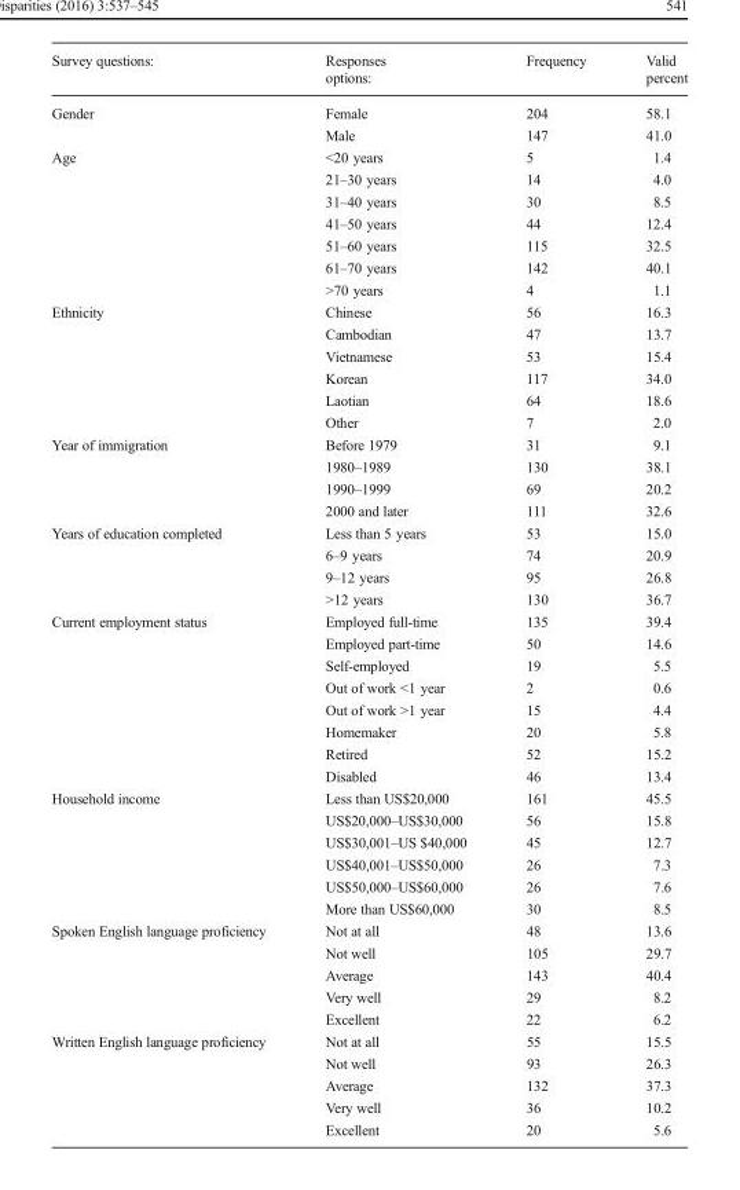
<table><thead><tr><td>Survey questions:</td><td>Responses options:</td><td>Frequency</td><td>Valid percent</td></tr></thead><tbody><tr><td rowspan="2">Gender</td><td>Female</td><td>204</td><td>58.1</td></tr><tr><td>Male</td><td>147</td><td>41.0</td></tr><tr><td rowspan="7">Age</td><td>&lt;20 years</td><td>5</td><td>1.4</td></tr><tr><td>21–30 years</td><td>14</td><td>4.0</td></tr><tr><td>31–40 years</td><td>30</td><td>8.5</td></tr><tr><td>41–50 years</td><td>44</td><td>12.4</td></tr><tr><td>51–60 years</td><td>115</td><td>32.5</td></tr><tr><td>61–70 years</td><td>142</td><td>40.1</td></tr><tr><td>&gt;70 years</td><td>4</td><td>1.1</td></tr><tr><td rowspan="6">Ethnicity</td><td>Chinese</td><td>56</td><td>16.3</td></tr><tr><td>Cambodian</td><td>47</td><td>13.7</td></tr><tr><td>Vietnamese</td><td>53</td><td>15.4</td></tr><tr><td>Korean</td><td>117</td><td>34.0</td></tr><tr><td>Laotian</td><td>64</td><td>18.6</td></tr><tr><td>Other</td><td>7</td><td>2.0</td></tr><tr><td rowspan="4">Year of immigration</td><td>Before 1979</td><td>31</td><td>9.1</td></tr><tr><td>1980–1989</td><td>130</td><td>38.1</td></tr><tr><td>1990–1999</td><td>69</td><td>20.2</td></tr><tr><td>2000 and later</td><td>111</td><td>32.6</td></tr><tr><td rowspan="4">Years of education completed</td><td>Less than 5 years</td><td>53</td><td>15.0</td></tr><tr><td>6–9 years</td><td>74</td><td>20.9</td></tr><tr><td>9–12 years</td><td>95</td><td>26.8</td></tr><tr><td>&gt;12 years</td><td>130</td><td>36.7</td></tr><tr><td rowspan="8">Current employment status</td><td>Employed full-time</td><td>135</td><td>39.4</td></tr><tr><td>Employed part-time</td><td>50</td><td>14.6</td></tr><tr><td>Self-employed</td><td>19</td><td>5.5</td></tr><tr><td>Out of work &lt;1 year</td><td>2</td><td>0.6</td></tr><tr><td>Out of work &gt;1 year</td><td>15</td><td>4.4</td></tr><tr><td>Homemaker</td><td>20</td><td>5.8</td></tr><tr><td>Retired</td><td>52</td><td>15.2</td></tr><tr><td>Disabled</td><td>46</td><td>13.4</td></tr><tr><td rowspan="6">Household income</td><td>Less than US$20,000</td><td>161</td><td>45.5</td></tr><tr><td>US$20,000–US$30,000</td><td>56</td><td>15.8</td></tr><tr><td>US$30,001–US $40,000</td><td>45</td><td>12.7</td></tr><tr><td>US$40,001–US$50,000</td><td>26</td><td>7.3</td></tr><tr><td>US$50,000–US$60,000</td><td>26</td><td>7.6</td></tr><tr><td>More than US$60,000</td><td>30</td><td>8.5</td></tr><tr><td rowspan="5">Spoken English language proficiency</td><td>Not at all</td><td>48</td><td>13.6</td></tr><tr><td>Not well</td><td>105</td><td>29.7</td></tr><tr><td>Average</td><td>143</td><td>40.4</td></tr><tr><td>Very well</td><td>29</td><td>8.2</td></tr><tr><td>Excellent</td><td>22</td><td>6.2</td></tr><tr><td rowspan="5">Written English language proficiency</td><td>Not at all</td><td>55</td><td>15.5</td></tr><tr><td>Not well</td><td>93</td><td>26.3</td></tr><tr><td>Average</td><td>132</td><td>37.3</td></tr><tr><td>Very well</td><td>36</td><td>10.2</td></tr><tr><td>Excellent</td><td>20</td><td>5.6</td></tr></tbody></table>